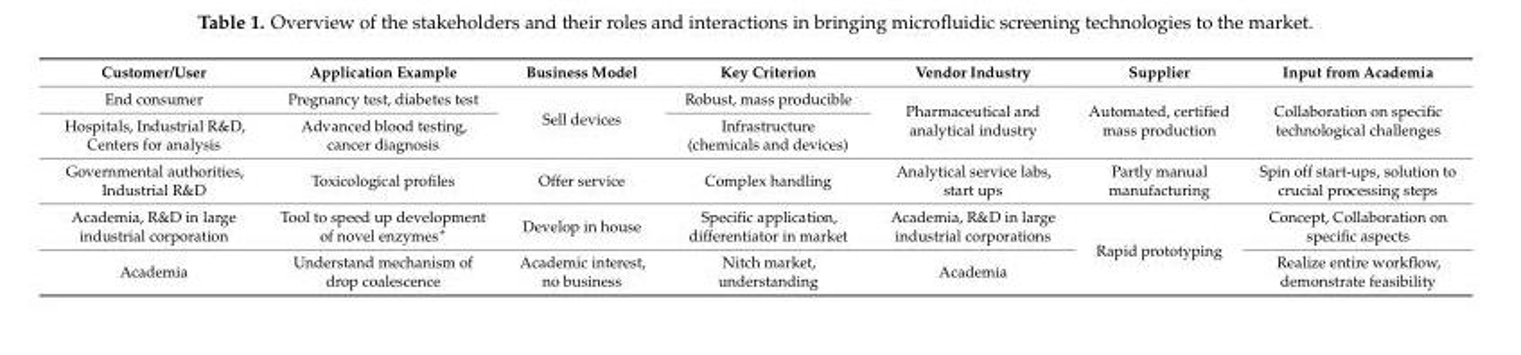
<table><thead><tr><td>Customer/User</td><td>Application Example</td><td>Business Model</td><td>Key Criterion</td><td>Vendor Industry</td><td>Supplier</td><td>Input from Academia</td></tr></thead><tbody><tr><td>End consumer</td><td>Pregnancy test, diabetes test</td><td rowspan="2">Sell devices</td><td>Robust, mass producible</td><td rowspan="2">Pharmaceutical and analytical industry</td><td rowspan="2">Automated, certified mass production</td><td rowspan="2">Collaboration on specific technological challenges</td></tr><tr><td>Hospitals, Industrial R&amp;D, Centers for analysis</td><td>Advanced blood testing, cancer diagnosis</td><td>Infrastructure (chemicals and devices)</td></tr><tr><td>Governmental authorities, Industrial R&amp;D</td><td>Toxicological profiles</td><td>Offer service</td><td>Complex handling</td><td>Analytical service labs, start ups</td><td>Partly manual manufacturing</td><td>Spin off start-ups, solution to crucial processing steps</td></tr><tr><td>Academia, R&amp;D in large industrial corporation</td><td>Tool to speed up development of novel enzymes<sup>+</sup></td><td>Develop in house</td><td>Specific application, differentiator in market</td><td>Academia, R&amp;D in large industrial corporations</td><td rowspan="2">Rapid prototyping</td><td>Concept, Collaboration on specific aspects</td></tr><tr><td>Academia</td><td>Understand mechanism of drop coalescence</td><td>Academic interest, no business</td><td>Nitch market, understanding</td><td>Academia</td><td>Realize entire workflow, demonstrate feasibility</td></tr></tbody></table>